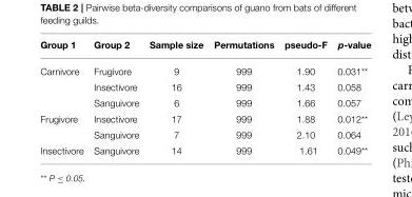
<table><thead><tr><td>Group 1</td><td>Group 2</td><td>Sample size</td><td>Permutations</td><td>pseudo-F</td><td>p-value</td></tr></thead><tbody><tr><td rowspan="3">Carnivore</td><td>Frugivore</td><td>9</td><td>999</td><td>1.90</td><td>0.031**</td></tr><tr><td>Insectivore</td><td>16</td><td>999</td><td>1.43</td><td>0.058</td></tr><tr><td>Sanguivore</td><td>6</td><td>999</td><td>1.66</td><td>0.057</td></tr><tr><td rowspan="2">Frugivore</td><td>Insectivore</td><td>17</td><td>999</td><td>1.88</td><td>0.012**</td></tr><tr><td>Sanguivore</td><td>7</td><td>999</td><td>2.10</td><td>0.064</td></tr><tr><td>Insectivore</td><td>Sanguivore</td><td>14</td><td>999</td><td>1.61</td><td>0.049**</td></tr></tbody></table>